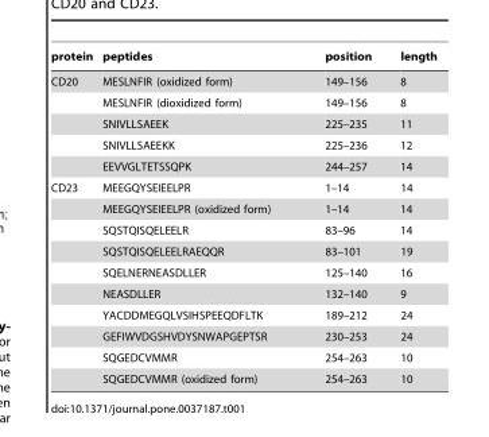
<table><thead><tr><td>protein</td><td>peptides</td><td>position</td><td>length</td></tr></thead><tbody><tr><td rowspan="5">CD20</td><td>MESLNFIR (oxidized form)</td><td>149–156</td><td>8</td></tr><tr><td>MESLNFIR (dioxidized form)</td><td>149–156</td><td>8</td></tr><tr><td>SNIVLLSAEEK</td><td>225–235</td><td>11</td></tr><tr><td>SNIVLLSAEEKK</td><td>225–236</td><td>12</td></tr><tr><td>EEVVGLTETSSQPK</td><td>244–257</td><td>14</td></tr><tr><td rowspan="10">CD23</td><td>MEEGQYSEIEELPR</td><td>1–14</td><td>14</td></tr><tr><td>MEEGQYSEIEELPR (oxidized form)</td><td>1–14</td><td>14</td></tr><tr><td>SQSTQISQELEELR</td><td>83–96</td><td>14</td></tr><tr><td>SQSTQISQELEELRAEQQR</td><td>83–101</td><td>19</td></tr><tr><td>SQELNERNEASDLLER</td><td>125–140</td><td>16</td></tr><tr><td>NEASDLLER</td><td>132–140</td><td>9</td></tr><tr><td>YACDDMEGQLVSIHSPEEQDFLTK</td><td>189–212</td><td>24</td></tr><tr><td>GEFIWVDGSHVDYSNWAPGEPTSR</td><td>230–253</td><td>24</td></tr><tr><td>SQGEDCVMMR</td><td>254–263</td><td>10</td></tr><tr><td>SQGEDCVMMR (oxidized form)</td><td>254–263</td><td>10</td></tr></tbody></table>